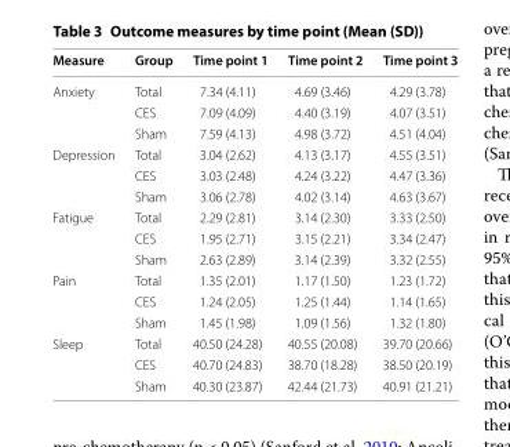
<table><thead><tr><td>Measure</td><td>Group</td><td>Time point 1</td><td>Time point 2</td><td>Time point 3</td></tr></thead><tbody><tr><td rowspan="3">Anxiety</td><td>Total</td><td>7.34 (4.11)</td><td>4.69 (3.46)</td><td>4.29 (3.78)</td></tr><tr><td>CES</td><td>7.09 (4.09)</td><td>4.40 (3.19)</td><td>4.07 (3.51)</td></tr><tr><td>Sham</td><td>7.59 (4.13)</td><td>4.98 (3.72)</td><td>4.51 (4.04)</td></tr><tr><td rowspan="3">Depression</td><td>Total</td><td>3.04 (2.62)</td><td>4.13 (3.17)</td><td>4.55 (3.51)</td></tr><tr><td>CES</td><td>3.03 (2.48)</td><td>4.24 (3.22)</td><td>4.47 (3.36)</td></tr><tr><td>Sham</td><td>3.06 (2.78)</td><td>4.02 (3.14)</td><td>4.63 (3.67)</td></tr><tr><td rowspan="3">Fatigue</td><td>Total</td><td>2.29 (2.81)</td><td>3.14 (2.30)</td><td>3.33 (2.50)</td></tr><tr><td>CES</td><td>1.95 (2.71)</td><td>3.15 (2.21)</td><td>3.34 (2.47)</td></tr><tr><td>Sham</td><td>2.63 (2.89)</td><td>3.14 (2.39)</td><td>3.32 (2.55)</td></tr><tr><td rowspan="3">Pain</td><td>Total</td><td>1.35 (2.01)</td><td>1.17 (1.50)</td><td>1.23 (1.72)</td></tr><tr><td>CES</td><td>1.24 (2.05)</td><td>1.25 (1.44)</td><td>1.14 (1.65)</td></tr><tr><td>Sham</td><td>1.45 (1.98)</td><td>1.09 (1.56)</td><td>1.32 (1.80)</td></tr><tr><td rowspan="3">Sleep</td><td>Total</td><td>40.50 (24.28)</td><td>40.55 (20.08)</td><td>39.70 (20.66)</td></tr><tr><td>CES</td><td>40.70 (24.83)</td><td>38.70 (18.28)</td><td>38.50 (20.19)</td></tr><tr><td>Sham</td><td>40.30 (23.87)</td><td>42.44 (21.73)</td><td>40.91 (21.21)</td></tr></tbody></table>